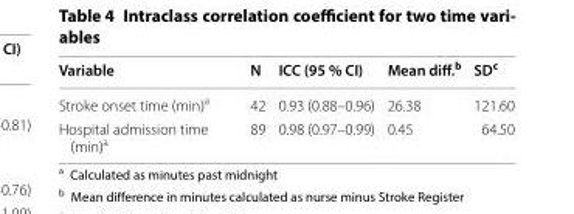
<table><thead><tr><td>Variable</td><td>N</td><td>ICC (95 % CI)</td><td>Mean diff.<sup>b</sup></td><td>SD<sup>c</sup></td></tr></thead><tbody><tr><td>Stroke onset time (min)<sup>a</sup></td><td>42</td><td>0.93 (0.88–0.96)</td><td>26.38</td><td>121.60</td></tr><tr><td>Hospital admission time (min)<sup>a</sup></td><td>89</td><td>0.98 (0.97–0.99)</td><td>0.45</td><td>64.50</td></tr></tbody></table>